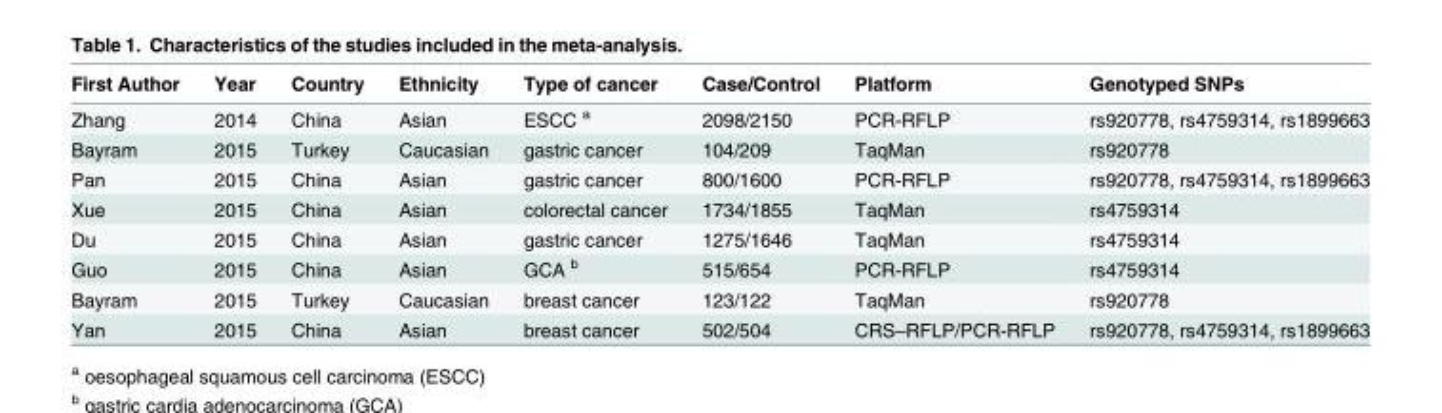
<table><thead><tr><td>First Author</td><td>Year</td><td>Country</td><td>Ethnicity</td><td>Type of cancer</td><td>Case/Control</td><td>Platform</td><td>Genotyped SNPs</td></tr></thead><tbody><tr><td>Zhang</td><td>2014</td><td>China</td><td>Asian</td><td>ESCC <sup>a</sup></td><td>2098/2150</td><td>PCR-RFLP</td><td>rs920778, rs4759314, rs1899663</td></tr><tr><td>Bayram</td><td>2015</td><td>Turkey</td><td>Caucasian</td><td>gastric cancer</td><td>104/209</td><td>TaqMan</td><td>rs920778</td></tr><tr><td>Pan</td><td>2015</td><td>China</td><td>Asian</td><td>gastric cancer</td><td>800/1600</td><td>PCR-RFLP</td><td>rs920778, rs4759314, rs1899663</td></tr><tr><td>Xue</td><td>2015</td><td>China</td><td>Asian</td><td>colorectal cancer</td><td>1734/1855</td><td>TaqMan</td><td>rs4759314</td></tr><tr><td>Du</td><td>2015</td><td>China</td><td>Asian</td><td>gastric cancer</td><td>1275/1646</td><td>TaqMan</td><td>rs4759314</td></tr><tr><td>Guo</td><td>2015</td><td>China</td><td>Asian</td><td>GCA <sup>b</sup></td><td>515/654</td><td>PCR-RFLP</td><td>rs4759314</td></tr><tr><td>Bayram</td><td>2015</td><td>Turkey</td><td>Caucasian</td><td>breast cancer</td><td>123/122</td><td>TaqMan</td><td>rs920778</td></tr><tr><td>Yan</td><td>2015</td><td>China</td><td>Asian</td><td>breast cancer</td><td>502/504</td><td>CRS–RFLP/PCR-RFLP</td><td>rs920778, rs4759314, rs1899663</td></tr></tbody></table>